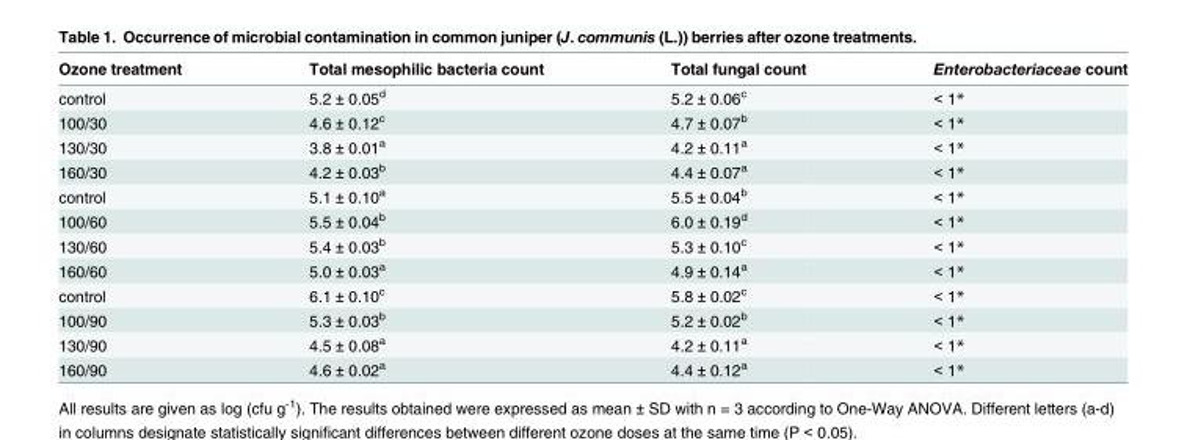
<table><thead><tr><td>Ozone treatment</td><td>Total mesophilic bacteria count</td><td>Total fungal count</td><td>Enterobacteriaceae count</td></tr></thead><tbody><tr><td>control</td><td>5.2 ± 0.05<sup>d</sup></td><td>5.2 ± 0.06<sup>c</sup></td><td>&lt; 1*</td></tr><tr><td>100/30</td><td>4.6 ± 0.12<sup>c</sup></td><td>4.7 ± 0.07<sup>b</sup></td><td>&lt; 1*</td></tr><tr><td>130/30</td><td>3.8 ± 0.01<sup>a</sup></td><td>4.2 ± 0.11<sup>a</sup></td><td>&lt; 1*</td></tr><tr><td>160/30</td><td>4.2 ± 0.03<sup>b</sup></td><td>4.4 ± 0.07<sup>a</sup></td><td>&lt; 1*</td></tr><tr><td>control</td><td>5.1 ± 0.10<sup>a</sup></td><td>5.5 ± 0.04<sup>b</sup></td><td>&lt; 1*</td></tr><tr><td>100/60</td><td>5.5 ± 0.04<sup>b</sup></td><td>6.0 ± 0.19<sup>d</sup></td><td>&lt; 1*</td></tr><tr><td>130/60</td><td>5.4 ± 0.03<sup>b</sup></td><td>5.3 ± 0.10<sup>c</sup></td><td>&lt; 1*</td></tr><tr><td>160/60</td><td>5.0 ± 0.03<sup>a</sup></td><td>4.9 ± 0.14<sup>a</sup></td><td>&lt; 1*</td></tr><tr><td>control</td><td>6.1 ± 0.10<sup>c</sup></td><td>5.8 ± 0.02<sup>c</sup></td><td>&lt; 1*</td></tr><tr><td>100/90</td><td>5.3 ± 0.03<sup>b</sup></td><td>5.2 ± 0.02<sup>b</sup></td><td>&lt; 1*</td></tr><tr><td>130/90</td><td>4.5 ± 0.08<sup>a</sup></td><td>4.2 ± 0.11<sup>a</sup></td><td>&lt; 1*</td></tr><tr><td>160/90</td><td>4.6 ± 0.02<sup>a</sup></td><td>4.4 ± 0.12<sup>a</sup></td><td>&lt; 1*</td></tr></tbody></table>